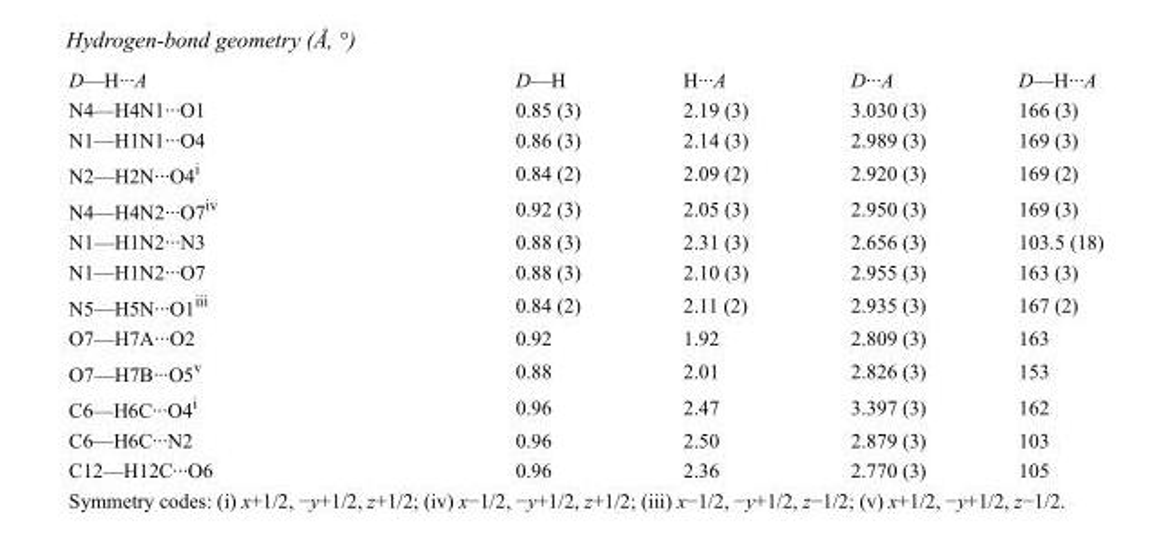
<table><tbody><tr><td>D—H···A</td><td>D—H</td><td>H···A</td><td>D···A</td><td>D—H···A</td></tr><tr><td>N4—H4N1···O1</td><td>0.85 (3)</td><td>2.19 (3)</td><td>3.030 (3)</td><td>166 (3)</td></tr><tr><td>N1—H1N1···O4</td><td>0.86 (3)</td><td>2.14 (3)</td><td>2.989 (3)</td><td>169 (3)</td></tr><tr><td>N2—H2N···O4<sup>i</sup></td><td>0.84 (2)</td><td>2.09 (2)</td><td>2.920 (3)</td><td>169 (2)</td></tr><tr><td>N4—H4N2···O7<sup>iv</sup></td><td>0.92 (3)</td><td>2.05 (3)</td><td>2.950 (3)</td><td>169 (3)</td></tr><tr><td>N1—H1N2···N3</td><td>0.88 (3)</td><td>2.31 (3)</td><td>2.656 (3)</td><td>103.5 (18)</td></tr><tr><td>N1—H1N2···O7</td><td>0.88 (3)</td><td>2.10 (3)</td><td>2.955 (3)</td><td>163 (3)</td></tr><tr><td>N5—H5N···O1<sup>iii</sup></td><td>0.84 (2)</td><td>2.11 (2)</td><td>2.935 (3)</td><td>167 (2)</td></tr><tr><td>O7—H7A···O2</td><td>0.92</td><td>1.92</td><td>2.809 (3)</td><td>163</td></tr><tr><td>O7—H7B···O5<sup>v</sup></td><td>0.88</td><td>2.01</td><td>2.826 (3)</td><td>153</td></tr><tr><td>C6—H6C···O4<sup>i</sup></td><td>0.96</td><td>2.47</td><td>3.397 (3)</td><td>162</td></tr><tr><td>C6—H6C···N2</td><td>0.96</td><td>2.50</td><td>2.879 (3)</td><td>103</td></tr><tr><td>C12—H12C···O6</td><td>0.96</td><td>2.36</td><td>2.770 (3)</td><td>105</td></tr></tbody></table>